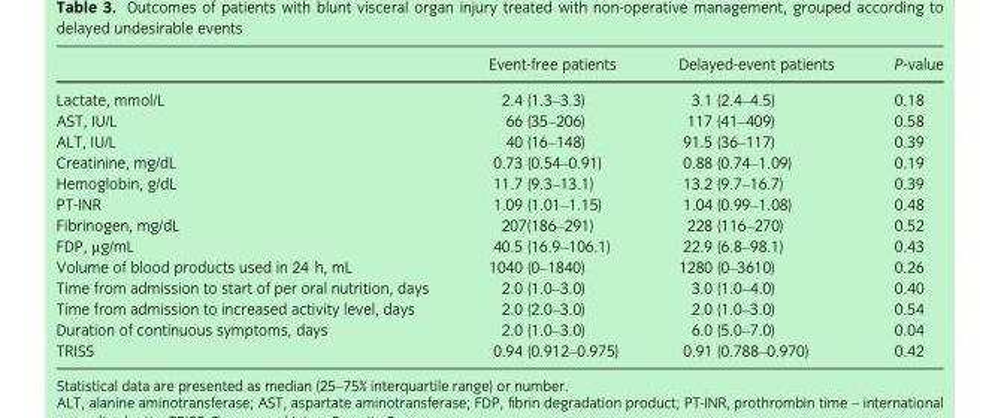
<table><thead><tr><td></td><td>Event-free patients</td><td>Delayed-event patients</td><td>P-value</td></tr></thead><tbody><tr><td>Lactate, mmol/L</td><td>2.4 (1.3–3.3)</td><td>3.1 (2.4–4.5)</td><td>0.18</td></tr><tr><td>AST, IU/L</td><td>66 (35–206)</td><td>117 (41–409)</td><td>0.58</td></tr><tr><td>ALT, IU/L</td><td>40 (16–148)</td><td>91.5 (36–117)</td><td>0.39</td></tr><tr><td>Creatinine, mg/dL</td><td>0.73 (0.54–0.91)</td><td>0.88 (0.74–1.09)</td><td>0.19</td></tr><tr><td>Hemoglobin, g/dL</td><td>11.7 (9.3–13.1)</td><td>13.2 (9.7–16.7)</td><td>0.39</td></tr><tr><td>PT-INR</td><td>1.09 (1.01–1.15)</td><td>1.04 (0.99–1.08)</td><td>0.48</td></tr><tr><td>Fibrinogen, mg/dL</td><td>207(186–291)</td><td>228 (116–270)</td><td>0.52</td></tr><tr><td>FDP, µg/mL</td><td>40.5 (16.9–106.1)</td><td>22.9 (6.8–98.1)</td><td>0.43</td></tr><tr><td>Volume of blood products used in 24 h, mL</td><td>1040 (0–1840)</td><td>1280 (0–3610)</td><td>0.26</td></tr><tr><td>Time from admission to start of per oral nutrition, days</td><td>2.0 (1.0–3.0)</td><td>3.0 (1.0–4.0)</td><td>0.40</td></tr><tr><td>Time from admission to increased activity level, days</td><td>2.0 (2.0–3.0)</td><td>2.0 (1.0–3.0)</td><td>0.54</td></tr><tr><td>Duration of continuous symptoms, days</td><td>2.0 (1.0–3.0)</td><td>6.0 (5.0–7.0)</td><td>0.04</td></tr><tr><td>TRISS</td><td>0.94 (0.912–0.975)</td><td>0.91 (0.788–0.970)</td><td>0.42</td></tr></tbody></table>